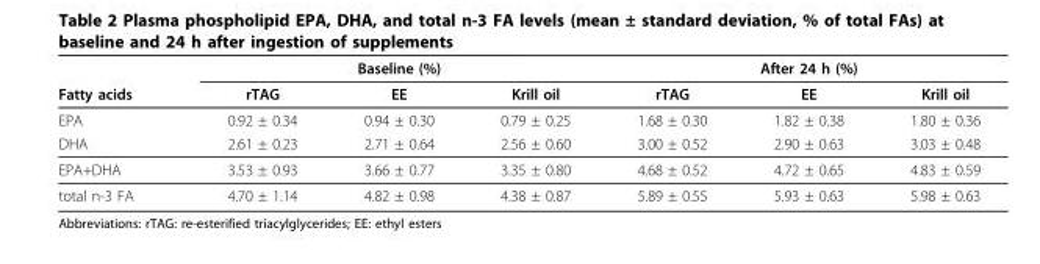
<table><thead><tr><td rowspan="2">Fatty acids</td><td colspan="3">Baseline (%)</td><td colspan="3">After 24 h (%)</td></tr><tr><td>rTAG</td><td>EE</td><td>Krill oil</td><td>rTAG</td><td>EE</td><td>Krill oil</td></tr></thead><tbody><tr><td>EPA</td><td>0.92 ± 0.34</td><td>0.94 ± 0.30</td><td>0.79 ± 0.25</td><td>1.68 ± 0.30</td><td>1.82 ± 0.38</td><td>1.80 ± 0.36</td></tr><tr><td>DHA</td><td>2.61 ± 0.23</td><td>2.71 ± 0.64</td><td>2.56 ± 0.60</td><td>3.00 ± 0.52</td><td>2.90 ± 0.63</td><td>3.03 ± 0.48</td></tr><tr><td>EPA+DHA</td><td>3.53 ± 0.93</td><td>3.66 ± 0.77</td><td>3.35 ± 0.80</td><td>4.68 ± 0.52</td><td>4.72 ± 0.65</td><td>4.83 ± 0.59</td></tr><tr><td>total n-3 FA</td><td>4.70 ± 1.14</td><td>4.82 ± 0.98</td><td>4.38 ± 0.87</td><td>5.89 ± 0.55</td><td>5.93 ± 0.63</td><td>5.98 ± 0.63</td></tr></tbody></table>